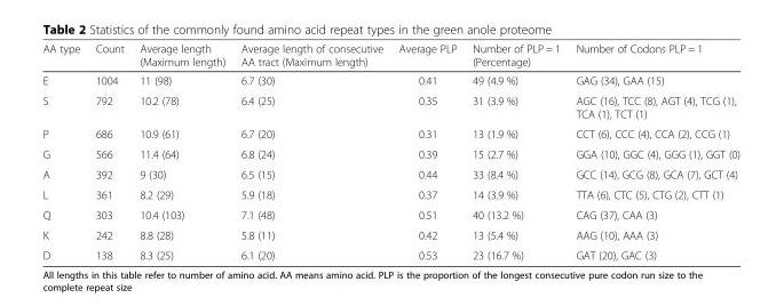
<table><thead><tr><td>AA type</td><td>Count</td><td>Average length (Maximum length)</td><td>Average length of consecutive AA tract (Maximum length)</td><td>Average PLP</td><td>Number of PLP = 1 (Percentage)</td><td>Number of Codons PLP = 1</td></tr></thead><tbody><tr><td>E</td><td>1004</td><td>11 (98)</td><td>6.7 (30)</td><td>0.41</td><td>49 (4.9 %)</td><td>GAG (34), GAA (15)</td></tr><tr><td>S</td><td>792</td><td>10.2 (78)</td><td>6.4 (25)</td><td>0.35</td><td>31 (3.9 %)</td><td>AGC (16), TCC (8), AGT (4), TCG (1), TCA (1), TCT (1)</td></tr><tr><td>P</td><td>686</td><td>10.9 (61)</td><td>6.7 (20)</td><td>0.31</td><td>13 (1.9 %)</td><td>CCT (6), CCC (4), CCA (2), CCG (1)</td></tr><tr><td>G</td><td>566</td><td>11.4 (64)</td><td>6.8 (24)</td><td>0.39</td><td>15 (2.7 %)</td><td>GGA (10), GGC (4), GGG (1), GGT (0)</td></tr><tr><td>A</td><td>392</td><td>9 (30)</td><td>6.5 (15)</td><td>0.44</td><td>33 (8.4 %)</td><td>GCC (14), GCG (8), GCA (7), GCT (4)</td></tr><tr><td>L</td><td>361</td><td>8.2 (29)</td><td>5.9 (18)</td><td>0.37</td><td>14 (3.9 %)</td><td>TTA (6), CTC (5), CTG (2), CTT (1)</td></tr><tr><td>Q</td><td>303</td><td>10.4 (103)</td><td>7.1 (48)</td><td>0.51</td><td>40 (13.2 %)</td><td>CAG (37), CAA (3)</td></tr><tr><td>K</td><td>242</td><td>8.8 (28)</td><td>5.8 (11)</td><td>0.42</td><td>13 (5.4 %)</td><td>AAG (10), AAA (3)</td></tr><tr><td>D</td><td>138</td><td>8.3 (25)</td><td>6.1 (20)</td><td>0.53</td><td>23 (16.7 %)</td><td>GAT (20), GAC (3)</td></tr></tbody></table>